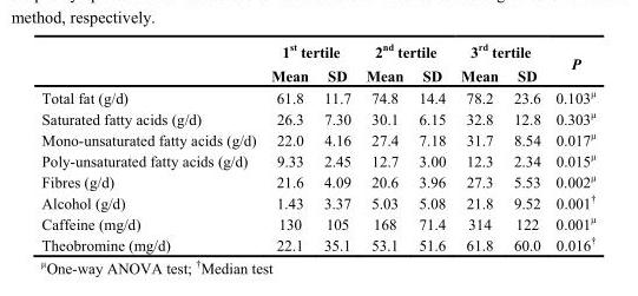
<table><thead><tr><td rowspan="2"></td><td colspan="2">1<sup>st</sup> tertile</td><td colspan="2">2<sup>nd</sup> tertile</td><td colspan="2">3<sup>rd</sup> tertile</td><td rowspan="2">P</td></tr><tr><td>Mean</td><td>SD</td><td>Mean</td><td>SD</td><td>Mean</td><td>SD</td></tr></thead><tbody><tr><td>Total fat (g/d)</td><td>61.8</td><td>11.7</td><td>74.8</td><td>14.4</td><td>78.2</td><td>23.6</td><td>0.103µ</td></tr><tr><td>Saturated fatty acids (g/d)</td><td>26.3</td><td>7.30</td><td>30.1</td><td>6.15</td><td>32.8</td><td>12.8</td><td>0.303µ</td></tr><tr><td>Mono-unsaturated fatty acids (g/d)</td><td>22.0</td><td>4.16</td><td>27.4</td><td>7.18</td><td>31.7</td><td>8.54</td><td>0.017µ</td></tr><tr><td>Poly-unsaturated fatty acids (g/d)</td><td>9.33</td><td>2.45</td><td>12.7</td><td>3.00</td><td>12.3</td><td>2.34</td><td>0.015µ</td></tr><tr><td>Fibres (g/d)</td><td>21.6</td><td>4.09</td><td>20.6</td><td>3.96</td><td>27.3</td><td>5.53</td><td>0.002µ</td></tr><tr><td>Alcohol (g/d)</td><td>1.43</td><td>3.37</td><td>5.03</td><td>5.08</td><td>21.8</td><td>9.52</td><td>0.001†</td></tr><tr><td>Caffeine (mg/d)</td><td>130</td><td>105</td><td>168</td><td>71.4</td><td>314</td><td>122</td><td>0.001µ</td></tr><tr><td>Theobromine (mg/d)</td><td>22.1</td><td>35.1</td><td>53.1</td><td>51.6</td><td>61.8</td><td>60.0</td><td>0.016†</td></tr></tbody></table>